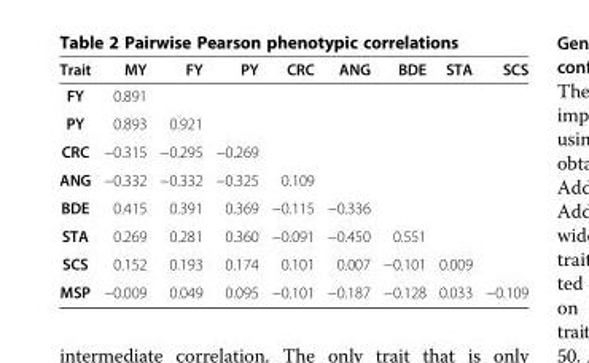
<table><thead><tr><td>Trait</td><td>MY</td><td>FY</td><td>PY</td><td>CRC</td><td>ANG</td><td>BDE</td><td>STA</td><td>SCS</td></tr></thead><tbody><tr><td>FY</td><td>0.891</td><td></td><td></td><td></td><td></td><td></td><td></td><td></td></tr><tr><td>PY</td><td>0.893</td><td>0.921</td><td></td><td></td><td></td><td></td><td></td><td></td></tr><tr><td>CRC</td><td>−0.315</td><td>−0.295</td><td>−0.269</td><td></td><td></td><td></td><td></td><td></td></tr><tr><td>ANG</td><td>−0.332</td><td>−0.332</td><td>−0.325</td><td>0.109</td><td></td><td></td><td></td><td></td></tr><tr><td>BDE</td><td>0.415</td><td>0.391</td><td>0.369</td><td>−0.115</td><td>−0.336</td><td></td><td></td><td></td></tr><tr><td>STA</td><td>0.269</td><td>0.281</td><td>0.360</td><td>−0.091</td><td>−0.450</td><td>0.551</td><td></td><td></td></tr><tr><td>SCS</td><td>0.152</td><td>0.193</td><td>0.174</td><td>0.101</td><td>0.007</td><td>−0.101</td><td>0.009</td><td></td></tr><tr><td>MSP</td><td>−0.009</td><td>0.049</td><td>0.095</td><td>−0.101</td><td>−0.187</td><td>−0.128</td><td>0.033</td><td>−0.109</td></tr></tbody></table>